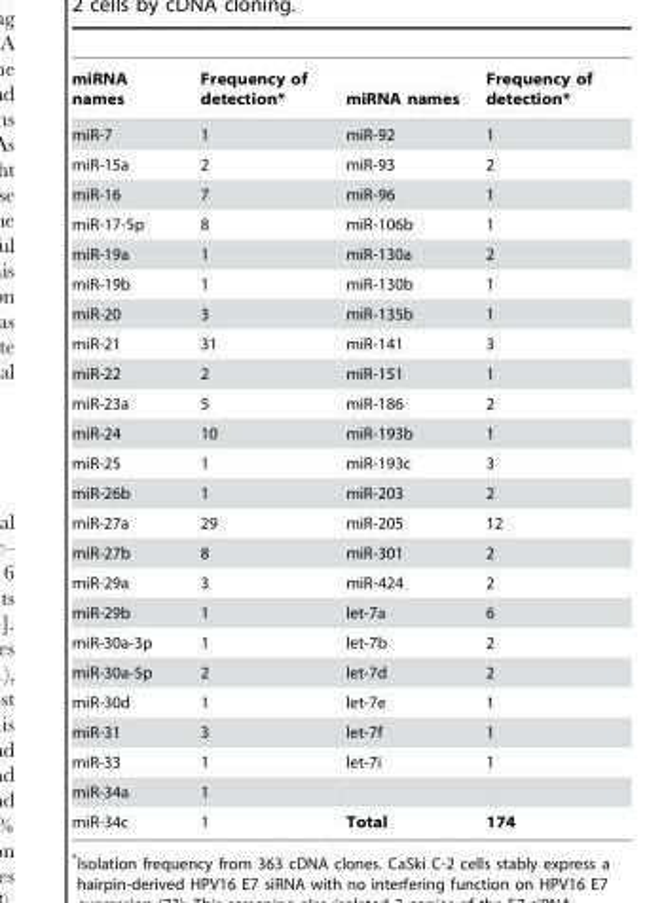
<table><thead><tr><td>miRNA names</td><td>Frequency of detection*</td><td>miRNA names</td><td>Frequency of detection*</td></tr></thead><tbody><tr><td>miR-7</td><td>1</td><td>miR-92</td><td>1</td></tr><tr><td>miR-15a</td><td>2</td><td>miR-93</td><td>2</td></tr><tr><td>miR-16</td><td>7</td><td>miR-96</td><td>1</td></tr><tr><td>miR-17-5p</td><td>8</td><td>miR-106b</td><td>1</td></tr><tr><td>miR-19a</td><td>1</td><td>miR-130a</td><td>2</td></tr><tr><td>miR-19b</td><td>1</td><td>miR-130b</td><td>1</td></tr><tr><td>miR-20</td><td>3</td><td>miR-135b</td><td>1</td></tr><tr><td>miR-21</td><td>31</td><td>miR-141</td><td>3</td></tr><tr><td>miR-22</td><td>2</td><td>miR-151</td><td>1</td></tr><tr><td>miR-23a</td><td>5</td><td>miR-186</td><td>2</td></tr><tr><td>miR-24</td><td>10</td><td>miR-193b</td><td>1</td></tr><tr><td>miR-25</td><td>1</td><td>miR-193c</td><td>3</td></tr><tr><td>miR-26b</td><td>1</td><td>miR-203</td><td>2</td></tr><tr><td>miR-27a</td><td>29</td><td>miR-205</td><td>12</td></tr><tr><td>miR-27b</td><td>8</td><td>miR-301</td><td>2</td></tr><tr><td>miR-29a</td><td>3</td><td>miR-424</td><td>2</td></tr><tr><td>miR-29b</td><td>1</td><td>let-7a</td><td>6</td></tr><tr><td>miR-30a-3p</td><td>1</td><td>let-7b</td><td>2</td></tr><tr><td>miR-30a-5p</td><td>2</td><td>let-7d</td><td>2</td></tr><tr><td>miR-30d</td><td>1</td><td>let-7e</td><td>1</td></tr><tr><td>miR-31</td><td>3</td><td>let-7f</td><td>1</td></tr><tr><td>miR-33</td><td>1</td><td>let-7i</td><td>1</td></tr><tr><td>miR-34a</td><td>1</td><td></td><td></td></tr><tr><td>miR-34c</td><td>1</td><td>Total</td><td>174</td></tr></tbody></table>